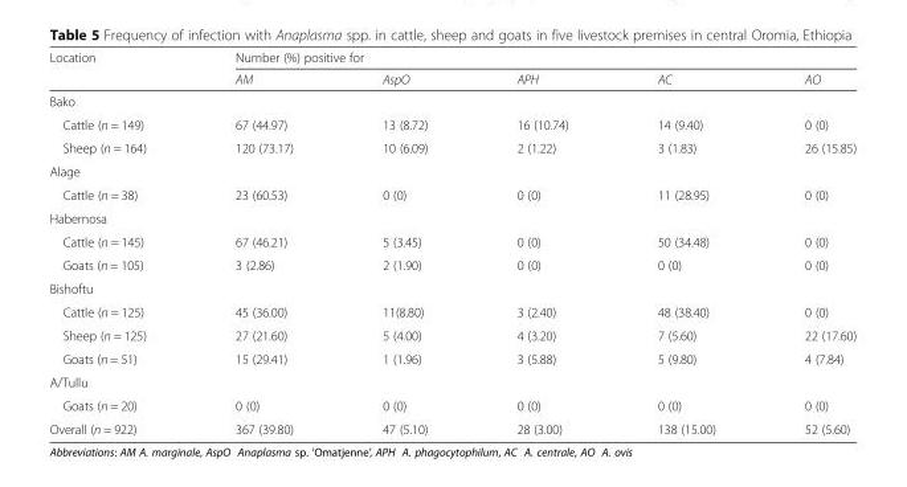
<table><thead><tr><td rowspan="2">Location</td><td colspan="5">Number (%) positive for</td></tr><tr><td>AM</td><td>AspO</td><td>APH</td><td>AC</td><td>AO</td></tr></thead><tbody><tr><td colspan="6">Bako</td></tr><tr><td>Cattle (n = 149)</td><td>67 (44.97)</td><td>13 (8.72)</td><td>16 (10.74)</td><td>14 (9.40)</td><td>0 (0)</td></tr><tr><td>Sheep (n = 164)</td><td>120 (73.17)</td><td>10 (6.09)</td><td>2 (1.22)</td><td>3 (1.83)</td><td>26 (15.85)</td></tr><tr><td colspan="6">Alage</td></tr><tr><td>Cattle (n = 38)</td><td>23 (60.53)</td><td>0 (0)</td><td>0 (0)</td><td>11 (28.95)</td><td>0 (0)</td></tr><tr><td colspan="6">Habernosa</td></tr><tr><td>Cattle (n = 145)</td><td>67 (46.21)</td><td>5 (3.45)</td><td>0 (0)</td><td>50 (34.48)</td><td>0 (0)</td></tr><tr><td>Goats (n = 105)</td><td>3 (2.86)</td><td>2 (1.90)</td><td>0 (0)</td><td>0 (0)</td><td>0 (0)</td></tr><tr><td colspan="6">Bishoftu</td></tr><tr><td>Cattle (n = 125)</td><td>45 (36.00)</td><td>11(8.80)</td><td>3 (2.40)</td><td>48 (38.40)</td><td>0 (0)</td></tr><tr><td>Sheep (n = 125)</td><td>27 (21.60)</td><td>5 (4.00)</td><td>4 (3.20)</td><td>7 (5.60)</td><td>22 (17.60)</td></tr><tr><td>Goats (n = 51)</td><td>15 (29.41)</td><td>1 (1.96)</td><td>3 (5.88)</td><td>5 (9.80)</td><td>4 (7.84)</td></tr><tr><td colspan="6">A/Tullu</td></tr><tr><td>Goats (n = 20)</td><td>0 (0)</td><td>0 (0)</td><td>0 (0)</td><td>0 (0)</td><td>0 (0)</td></tr><tr><td>Overall (n = 922)</td><td>367 (39.80)</td><td>47 (5.10)</td><td>28 (3.00)</td><td>138 (15.00)</td><td>52 (5.60)</td></tr></tbody></table>